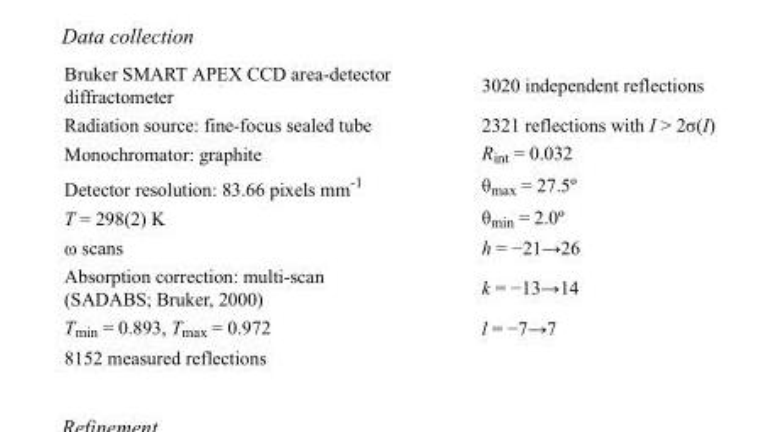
<table><tbody><tr><td>Bruker SMART APEX CCD area-detector diffractometer</td><td>3020 independent reflections</td></tr><tr><td>Radiation source: fine-focus sealed tube</td><td>2321 reflections with I &gt; 2σ(I)</td></tr><tr><td>Monochromator: graphite</td><td>R<sub>int</sub> = 0.032</td></tr><tr><td>Detector resolution: 83.66 pixels mm<sup>-1</sup></td><td>θ<sub>max</sub> = 27.5º</td></tr><tr><td>T = 298(2) K</td><td>θ<sub>min</sub> = 2.0º</td></tr><tr><td>ω scans</td><td>h = −21→26</td></tr><tr><td>Absorption correction: multi-scan (SADABS; Bruker, 2000)</td><td>k = −13→14</td></tr><tr><td>T<sub>min</sub> = 0.893, T<sub>max</sub> = 0.972</td><td>l = −7→7</td></tr><tr><td>8152 measured reflections</td><td></td></tr></tbody></table>